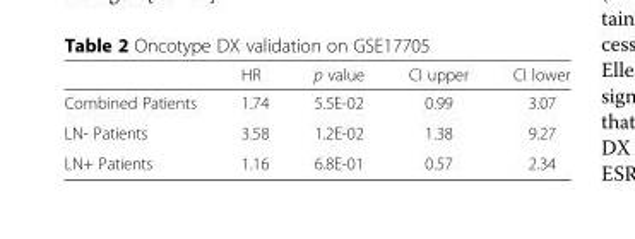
<table><thead><tr><td></td><td>HR</td><td>p value</td><td>CI upper</td><td>CI lower</td></tr></thead><tbody><tr><td>Combined Patients</td><td>1.74</td><td>5.5E-02</td><td>0.99</td><td>3.07</td></tr><tr><td>LN- Patients</td><td>3.58</td><td>1.2E-02</td><td>1.38</td><td>9.27</td></tr><tr><td>LN+ Patients</td><td>1.16</td><td>6.8E-01</td><td>0.57</td><td>2.34</td></tr></tbody></table>